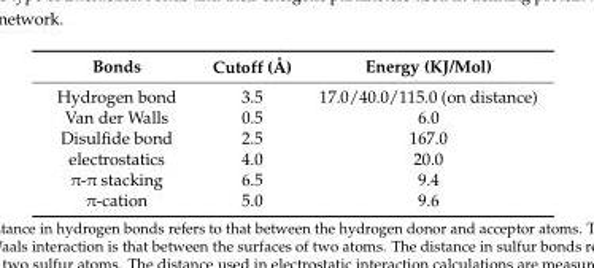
<table><thead><tr><td>Bonds</td><td>Cutoff (Å)</td><td>Energy (KJ/Mol)</td></tr></thead><tbody><tr><td>Hydrogen bond</td><td>3.5</td><td>17.0/40.0/115.0 (on distance)</td></tr><tr><td>Van der Walls</td><td>0.5</td><td>6.0</td></tr><tr><td>Disulfide bond</td><td>2.5</td><td>167.0</td></tr><tr><td>electrostatics</td><td>4.0</td><td>20.0</td></tr><tr><td>π-π stacking</td><td>6.5</td><td>9.4</td></tr><tr><td>π-cation</td><td>5.0</td><td>9.6</td></tr></tbody></table>